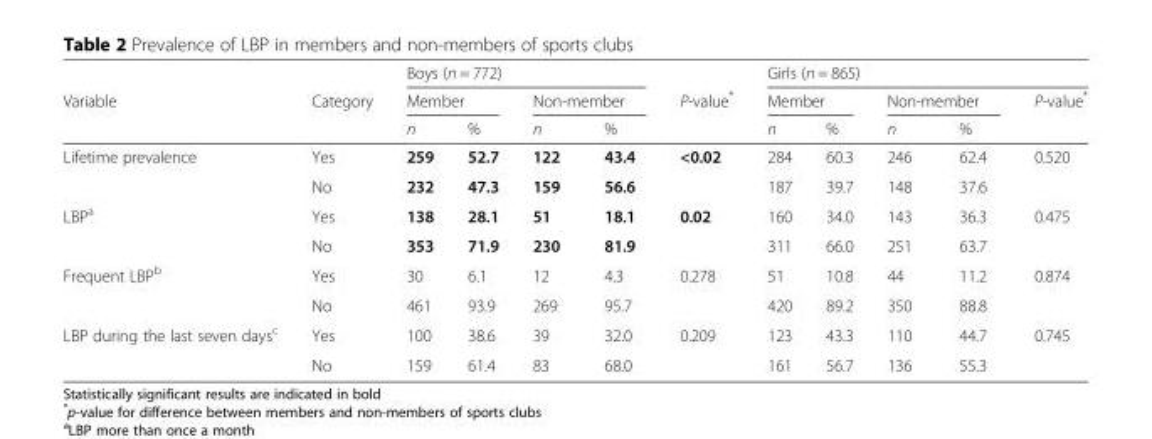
<table><thead><tr><td rowspan="3">Variable</td><td rowspan="3">Category</td><td colspan="4">Boys (n = 772)</td><td rowspan="3">P-value*</td><td colspan="5">Girls (n = 865)</td></tr><tr><td colspan="2">Member</td><td colspan="2">Non-member</td><td colspan="2">Member</td><td colspan="2">Non-member</td><td rowspan="2">P-value*</td></tr><tr><td>n</td><td>%</td><td>n</td><td>%</td><td>n</td><td>%</td><td>n</td><td>%</td></tr></thead><tbody><tr><td rowspan="2">Lifetime prevalence</td><td>Yes</td><td>259</td><td>52.7</td><td>122</td><td>43.4</td><td>&lt;0.02</td><td>284</td><td>60.3</td><td>246</td><td>62.4</td><td>0.520</td></tr><tr><td>No</td><td>232</td><td>47.3</td><td>159</td><td>56.6</td><td></td><td>187</td><td>39.7</td><td>148</td><td>37.6</td><td></td></tr><tr><td rowspan="2">LBP<sup>a</sup></td><td>Yes</td><td>138</td><td>28.1</td><td>51</td><td>18.1</td><td>0.02</td><td>160</td><td>34.0</td><td>143</td><td>36.3</td><td>0.475</td></tr><tr><td>No</td><td>353</td><td>71.9</td><td>230</td><td>81.9</td><td></td><td>311</td><td>66.0</td><td>251</td><td>63.7</td><td></td></tr><tr><td rowspan="2">Frequent LBP<sup>b</sup></td><td>Yes</td><td>30</td><td>6.1</td><td>12</td><td>4.3</td><td>0.278</td><td>51</td><td>10.8</td><td>44</td><td>11.2</td><td>0.874</td></tr><tr><td>No</td><td>461</td><td>93.9</td><td>269</td><td>95.7</td><td></td><td>420</td><td>89.2</td><td>350</td><td>88.8</td><td></td></tr><tr><td rowspan="2">LBP during the last seven days<sup>c</sup></td><td>Yes</td><td>100</td><td>38.6</td><td>39</td><td>32.0</td><td>0.209</td><td>123</td><td>43.3</td><td>110</td><td>44.7</td><td>0.745</td></tr><tr><td>No</td><td>159</td><td>61.4</td><td>83</td><td>68.0</td><td></td><td>161</td><td>56.7</td><td>136</td><td>55.3</td><td></td></tr></tbody></table>